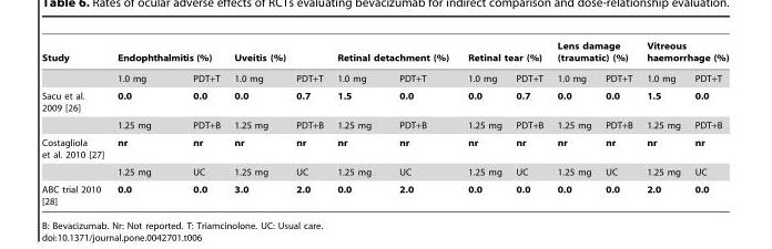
<table><thead><tr><td rowspan="2">Study</td><td colspan="2">Endophthalmitis (%)</td><td colspan="2">Uveitis (%)</td><td colspan="2">Retinal detachment (%)</td><td colspan="2">Retinal tear (%)</td><td colspan="2">Lens damage (traumatic) (%)</td><td colspan="2">Vitreous haemorrhage (%)</td></tr><tr><td>1.0 mg</td><td>PDT+T</td><td>1.0 mg</td><td>PDT+T</td><td>1.0 mg</td><td>PDT+T</td><td>1.0 mg</td><td>PDT+T</td><td>1.0 mg</td><td>PDT+T</td><td>1.0 mg</td><td>PDT+T</td></tr></thead><tbody><tr><td rowspan="2">Sacu et al. 2009 [26]</td><td>0.0</td><td>0.0</td><td>0.0</td><td>0.7</td><td>1.5</td><td>0.0</td><td>0.0</td><td>0.7</td><td>0.0</td><td>0.0</td><td>1.5</td><td>0.0</td></tr><tr><td>1.25 mg</td><td>PDT+B</td><td>1.25 mg</td><td>PDT+B</td><td>1.25 mg</td><td>PDT+B</td><td>1.25 mg</td><td>PDT+B</td><td>1.25 mg</td><td>PDT+B</td><td>1.25 mg</td><td>PDT+B</td></tr><tr><td rowspan="2">Costagliola et al. 2010 [27]</td><td>nr</td><td>nr</td><td>nr</td><td>nr</td><td>nr</td><td>nr</td><td>nr</td><td>nr</td><td>nr</td><td>nr</td><td>nr</td><td>nr</td></tr><tr><td>1.25 mg</td><td>UC</td><td>1.25 mg</td><td>UC</td><td>1.25 mg</td><td>UC</td><td>1.25 mg</td><td>UC</td><td>1.25 mg</td><td>UC</td><td>1.25 mg</td><td>UC</td></tr><tr><td>ABC trial 2010 [28]</td><td>0.0</td><td>0.0</td><td>3.0</td><td>2.0</td><td>0.0</td><td>2.0</td><td>0.0</td><td>0.0</td><td>0.0</td><td>0.0</td><td>2.0</td><td>0.0</td></tr></tbody></table>